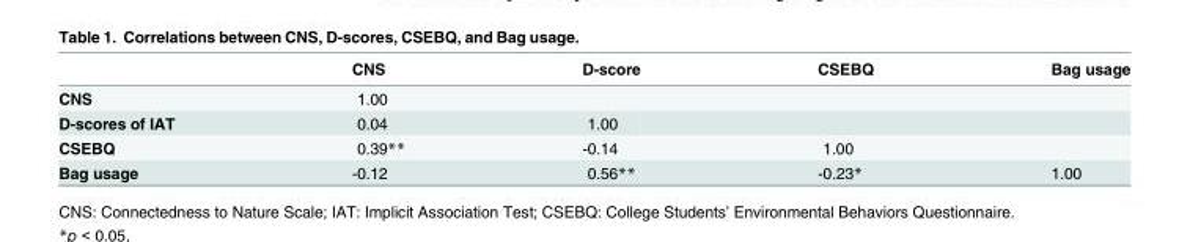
<table><thead><tr><td></td><td>CNS</td><td>D-score</td><td>CSEBQ</td><td>Bag usage</td></tr></thead><tbody><tr><td>CNS</td><td>1.00</td><td></td><td></td><td></td></tr><tr><td>D-scores of IAT</td><td>0.04</td><td>1.00</td><td></td><td></td></tr><tr><td>CSEBQ</td><td>0.39**</td><td>-0.14</td><td>1.00</td><td></td></tr><tr><td>Bag usage</td><td>-0.12</td><td>0.56**</td><td>-0.23*</td><td>1.00</td></tr></tbody></table>